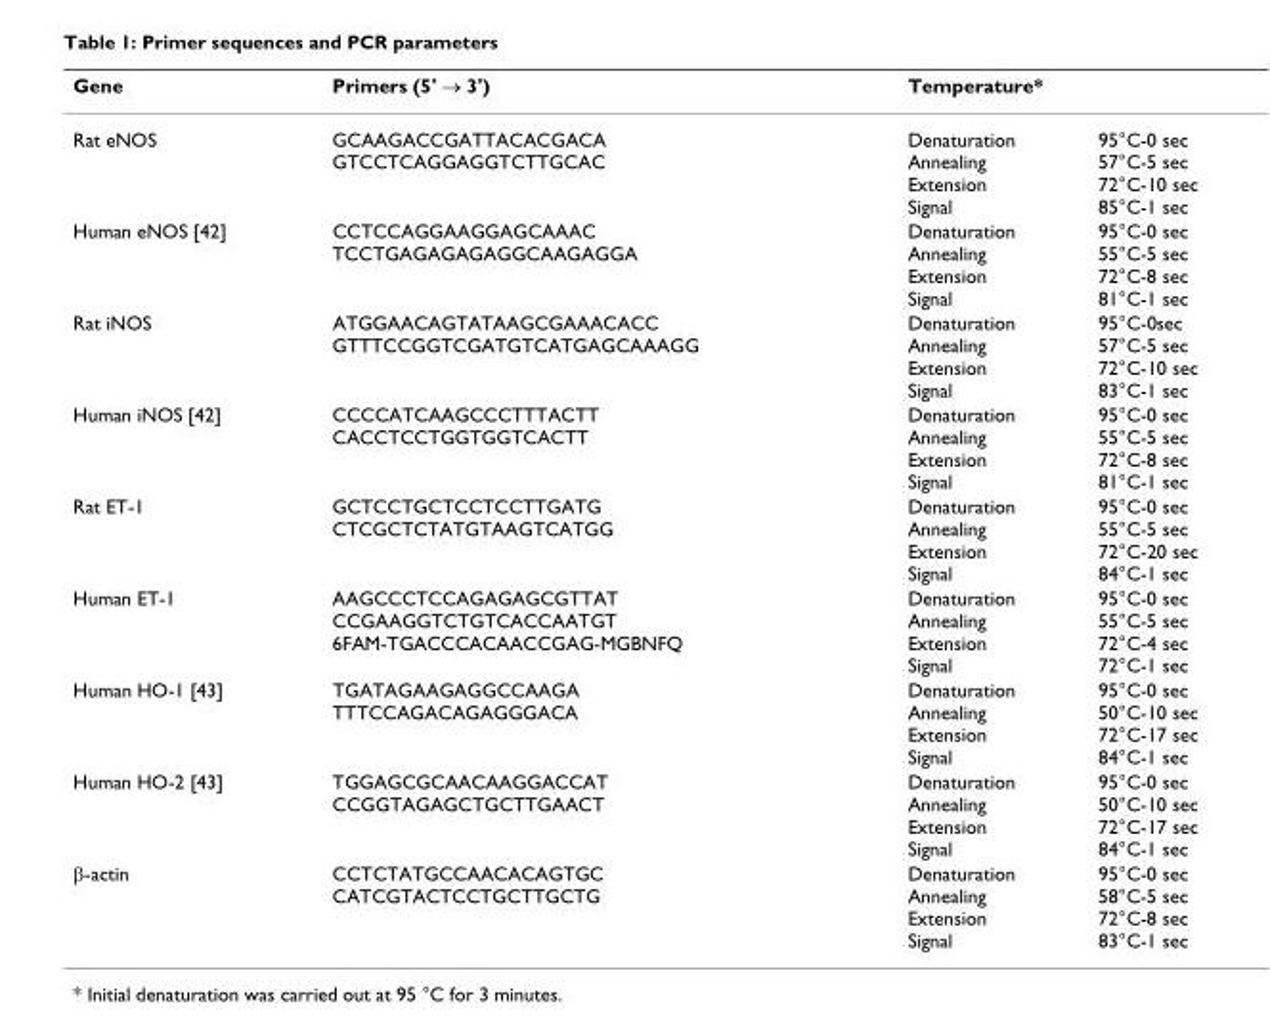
<table><thead><tr><td rowspan="2">Gene Rat eNOS</td><td rowspan="2">Primers (5&#x27; → 3&#x27;) GCAAGACCGATTACACGACA GTCCTCAGGAGGTCTTGCAC</td><td colspan="2">Temperature*</td></tr><tr><td>Denaturation Annealing Extension Signal</td><td>95°C-0 sec 57°C-5 sec 72°C-10 sec 85°C-1 sec</td></tr></thead><tbody><tr><td>Human eNOS [42]</td><td>CCTCCAGGAAGGAGCAAAC TCCTGAGAGAGAGGCAAGAGGA</td><td>Denaturation Annealing Extension Signal</td><td>95°C-0 sec 55°C-5 sec 72°C-8 sec 81°C-1 sec</td></tr><tr><td>Rat iNOS</td><td>ATGGAACAGTATAAGCGAAACACC GTTTCCGGTCGATGTCATGAGCAAAGG</td><td>Denaturation Annealing Extension Signal</td><td>95°C-0sec 57°C-5 sec 72°C-10 sec 83°C-1 sec</td></tr><tr><td>Human iNOS [42]</td><td>CCCCATCAAGCCCTTTACTT CACCTCCTGGTGGTCACTT</td><td>Denaturation Annealing Extension Signal</td><td>95°C-0 sec 55°C-5 sec 72°C-8 sec 81°C-1 sec</td></tr><tr><td>Rat ET-1</td><td>GCTCCTGCTCCTCCTTGATG CTCGCTCTATGTAAGTCATGG</td><td>Denaturation Annealing Extension Signal</td><td>95°C-0 sec 55°C-5 sec 72°C-20 sec 84°C-1 sec</td></tr><tr><td>Human ET-1</td><td>AAGCCCTCCAGAGAGCGTTAT CCGAAGGTCTGTCACCAATGT 6FAM-TGACCCACAACCGAG-MGBNFQ</td><td>Denaturation Annealing Extension Signal</td><td>95°C-0 sec 55°C-5 sec 72°C-4 sec 72°C-1 sec</td></tr><tr><td>Human HO-1 [43]</td><td>TGATAGAAGAGGCCAAGA TTTCCAGACAGAGGGACA</td><td>Denaturation Annealing Extension Signal</td><td>95°C-0 sec 50°C-10 sec 72°C-17 sec 84°C-1 sec</td></tr><tr><td>Human HO-2 [43]</td><td>TGGAGCGCAACAAGGACCAT CCGGTAGAGCTGCTTGAACT</td><td>Denaturation Annealing Extension Signal</td><td>95°C-0 sec 50°C-10 sec 72°C-17 sec 84°C-1 sec</td></tr><tr><td>β-actin</td><td>CCTCTATGCCAACACAGTGC CATCGTACTCCTGCTTGCTG</td><td>Denaturation Annealing Extension Signal</td><td>95°C-0 sec 58°C-5 sec 72°C-8 sec 83°C-1 sec</td></tr></tbody></table>